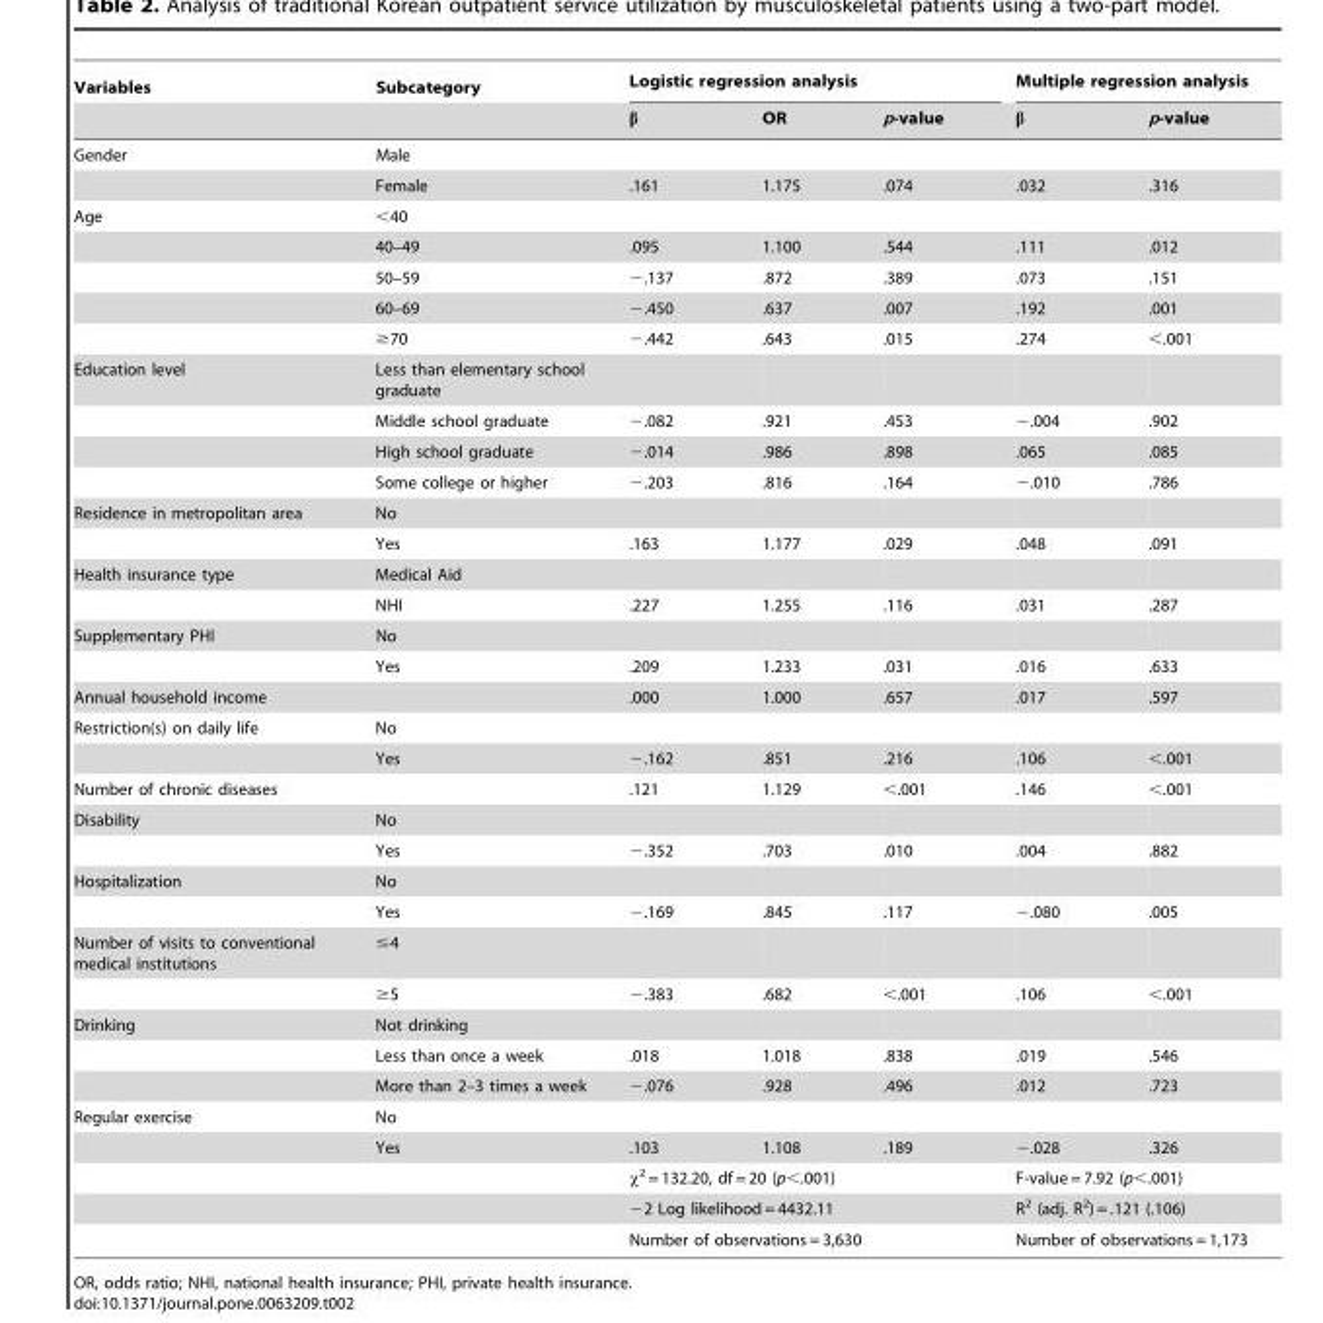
<table><thead><tr><td rowspan="2">Variables</td><td rowspan="2">Subcategory</td><td colspan="3">Logistic regression analysis</td><td colspan="2">Multiple regression analysis</td></tr><tr><td>β</td><td>OR</td><td>p-value</td><td>β</td><td>p-value</td></tr></thead><tbody><tr><td rowspan="2">Gender</td><td>Male</td><td></td><td></td><td></td><td></td><td></td></tr><tr><td>Female</td><td>.161</td><td>1.175</td><td>.074</td><td>.032</td><td>.316</td></tr><tr><td rowspan="5">Age</td><td>&lt;40</td><td></td><td></td><td></td><td></td><td></td></tr><tr><td>40–49</td><td>.095</td><td>1.100</td><td>.544</td><td>.111</td><td>.012</td></tr><tr><td>50–59</td><td>−.137</td><td>.872</td><td>.389</td><td>.073</td><td>.151</td></tr><tr><td>60–69</td><td>−.450</td><td>.637</td><td>.007</td><td>.192</td><td>.001</td></tr><tr><td>≥70</td><td>−.442</td><td>.643</td><td>.015</td><td>.274</td><td>&lt;.001</td></tr><tr><td rowspan="4">Education level</td><td>Less than elementary school graduate</td><td></td><td></td><td></td><td></td><td></td></tr><tr><td>Middle school graduate</td><td>−.082</td><td>.921</td><td>.453</td><td>−.004</td><td>.902</td></tr><tr><td>High school graduate</td><td>−.014</td><td>.986</td><td>.898</td><td>.065</td><td>.085</td></tr><tr><td>Some college or higher</td><td>−.203</td><td>.816</td><td>.164</td><td>−.010</td><td>.786</td></tr><tr><td rowspan="2">Residence in metropolitan area</td><td>No</td><td></td><td></td><td></td><td></td><td></td></tr><tr><td>Yes</td><td>.163</td><td>1.177</td><td>.029</td><td>.048</td><td>.091</td></tr><tr><td rowspan="2">Health insurance type</td><td>Medical Aid</td><td></td><td></td><td></td><td></td><td></td></tr><tr><td>NHI</td><td>.227</td><td>1.255</td><td>.116</td><td>.031</td><td>.287</td></tr><tr><td rowspan="2">Supplementary PHI</td><td>No</td><td></td><td></td><td></td><td></td><td></td></tr><tr><td>Yes</td><td>.209</td><td>1.233</td><td>.031</td><td>.016</td><td>.633</td></tr><tr><td>Annual household income</td><td></td><td>.000</td><td>1.000</td><td>.657</td><td>.017</td><td>.597</td></tr><tr><td rowspan="2">Restriction(s) on daily life</td><td>No</td><td></td><td></td><td></td><td></td><td></td></tr><tr><td>Yes</td><td>−.162</td><td>.851</td><td>.216</td><td>.106</td><td>&lt;.001</td></tr><tr><td>Number of chronic diseases</td><td></td><td>.121</td><td>1.129</td><td>&lt;.001</td><td>.146</td><td>&lt;.001</td></tr><tr><td rowspan="2">Disability</td><td>No</td><td></td><td></td><td></td><td></td><td></td></tr><tr><td>Yes</td><td>−.352</td><td>.703</td><td>.010</td><td>.004</td><td>.882</td></tr><tr><td rowspan="2">Hospitalization</td><td>No</td><td></td><td></td><td></td><td></td><td></td></tr><tr><td>Yes</td><td>−.169</td><td>.845</td><td>.117</td><td>−.080</td><td>.005</td></tr><tr><td rowspan="2">Number of visits to conventional medical institutions</td><td>≤4</td><td></td><td></td><td></td><td></td><td></td></tr><tr><td>≥5</td><td>−.383</td><td>.682</td><td>&lt;.001</td><td>.106</td><td>&lt;.001</td></tr><tr><td rowspan="3">Drinking</td><td>Not drinking</td><td></td><td></td><td></td><td></td><td></td></tr><tr><td>Less than once a week</td><td>.018</td><td>1.018</td><td>.838</td><td>.019</td><td>.546</td></tr><tr><td>More than 2–3 times a week</td><td>−.076</td><td>.928</td><td>.496</td><td>.012</td><td>.723</td></tr><tr><td rowspan="5">Regular exercise</td><td>No</td><td></td><td></td><td></td><td></td><td></td></tr><tr><td>Yes</td><td>.103</td><td>1.108</td><td>.189</td><td>−.028</td><td>.326</td></tr><tr><td></td><td colspan="3">χ<sup>2</sup> = 132.20, df = 20 (p&lt;.001)</td><td colspan="2">F-value = 7.92 (p&lt;.001)</td></tr><tr><td></td><td colspan="3">−2 Log likelihood = 4432.11</td><td colspan="2">R<sup>2</sup> (adj. R<sup>2</sup>) = .121 (.106)</td></tr><tr><td></td><td colspan="3">Number of observations = 3,630</td><td colspan="2">Number of observations = 1,173</td></tr></tbody></table>